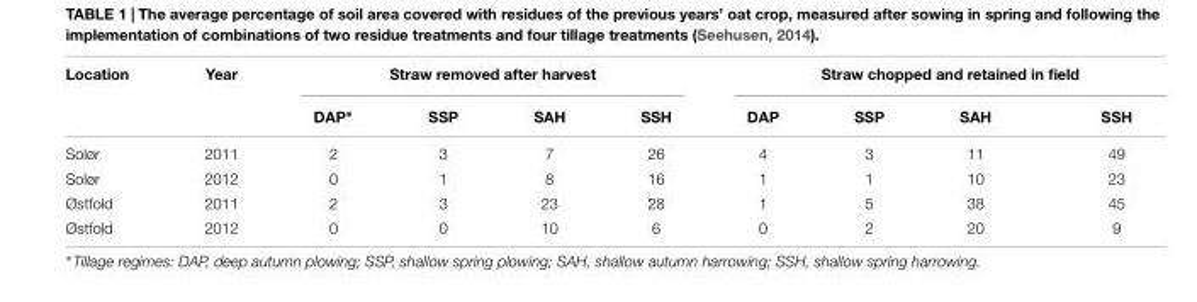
<table><thead><tr><td rowspan="2">Location</td><td rowspan="2">Year</td><td colspan="4">Straw removed after harvest</td><td colspan="4">Straw chopped and retained in field</td></tr><tr><td>DAP∗</td><td>SSP</td><td>SAH</td><td>SSH</td><td>DAP</td><td>SSP</td><td>SAH</td><td>SSH</td></tr></thead><tbody><tr><td>Solør</td><td>2011</td><td>2</td><td>3</td><td>7</td><td>26</td><td>4</td><td>3</td><td>11</td><td>49</td></tr><tr><td>Solør</td><td>2012</td><td>0</td><td>1</td><td>8</td><td>16</td><td>1</td><td>1</td><td>10</td><td>23</td></tr><tr><td>Østfold</td><td>2011</td><td>2</td><td>3</td><td>23</td><td>28</td><td>1</td><td>5</td><td>38</td><td>45</td></tr><tr><td>Østfold</td><td>2012</td><td>0</td><td>0</td><td>10</td><td>6</td><td>0</td><td>2</td><td>20</td><td>9</td></tr></tbody></table>